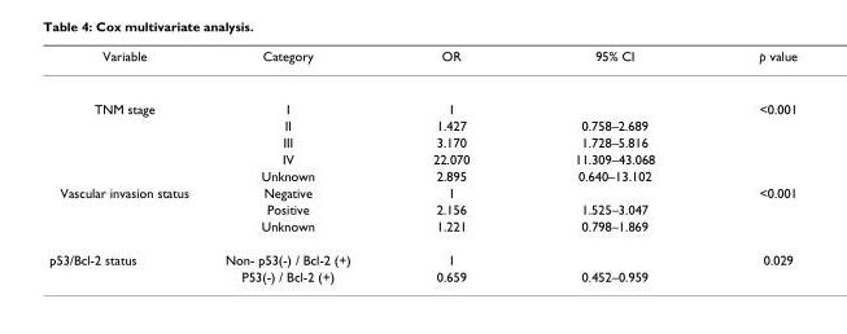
<table><thead><tr><td>Variable</td><td>Category</td><td>OR</td><td>95% CI</td><td>p value</td></tr></thead><tbody><tr><td rowspan="5">TNM stage</td><td>I</td><td>1</td><td></td><td>&lt;0.001</td></tr><tr><td>II</td><td>1.427</td><td>0.758–2.689</td><td></td></tr><tr><td>III</td><td>3.170</td><td>1.728–5.816</td><td></td></tr><tr><td>IV</td><td>22.070</td><td>11.309–43.068</td><td></td></tr><tr><td>Unknown</td><td>2.895</td><td>0.640–13.102</td><td></td></tr><tr><td rowspan="3">Vascular invasion status</td><td>Negative</td><td>1</td><td></td><td>&lt;0.001</td></tr><tr><td>Positive</td><td>2.156</td><td>1.525–3.047</td><td></td></tr><tr><td>Unknown</td><td>1.221</td><td>0.798–1.869</td><td></td></tr><tr><td rowspan="2">p53/Bcl-2 status</td><td>Non- p53(-) / Bcl-2 (+)</td><td>1</td><td></td><td>0.029</td></tr><tr><td>P53(-) / Bcl-2 (+)</td><td>0.659</td><td>0.452–0.959</td><td></td></tr></tbody></table>